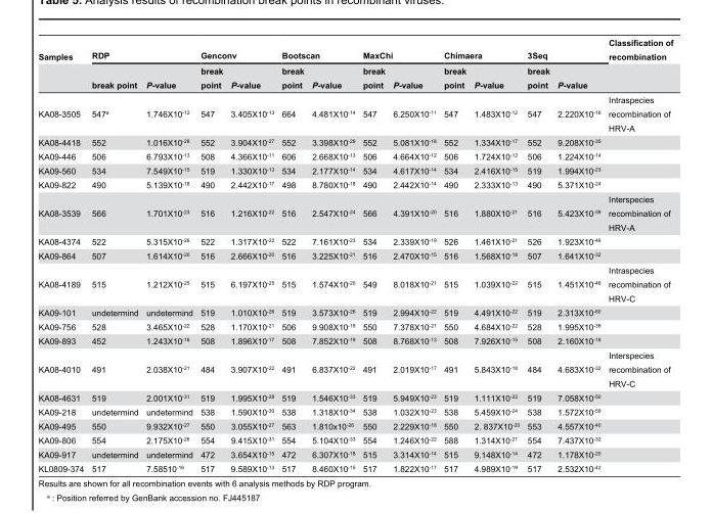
<table><thead><tr><td rowspan="2">Samples</td><td colspan="2">RDP</td><td colspan="2">Genconv</td><td colspan="2">Bootscan</td><td colspan="2">MaxChi</td><td colspan="2">Chimaera</td><td colspan="2">3Seq</td><td rowspan="2">Classification of recombination</td></tr><tr><td>break point</td><td>P-value</td><td>break point</td><td>P-value</td><td>break point</td><td>P-value</td><td>break point</td><td>P-value</td><td>break point</td><td>P-value</td><td>break point</td><td>P-value</td></tr></thead><tbody><tr><td>KA08-3505</td><td>547<sup>a</sup></td><td>1.746X10<sup>-12</sup></td><td>547</td><td>3.405X10<sup>-13</sup></td><td>664</td><td>4.481X10<sup>-14</sup></td><td>547</td><td>6.250X10<sup>-11</sup></td><td>547</td><td>1.483X10<sup>-12</sup></td><td>547</td><td>2.220X10<sup>-16</sup></td><td>Intraspecies recombination of HRV-A</td></tr><tr><td>KA08-4418</td><td>552</td><td>1.016X10<sup>-28</sup></td><td>552</td><td>3.904X10<sup>-27</sup></td><td>552</td><td>3.398X10<sup>-29</sup></td><td>552</td><td>5.081X10<sup>-18</sup></td><td>552</td><td>1.334X10<sup>-17</sup></td><td>552</td><td>9.208X10<sup>-35</sup></td><td></td></tr><tr><td>KA09-446</td><td>506</td><td>6.793X10<sup>-13</sup></td><td>508</td><td>4.366X10<sup>-11</sup></td><td>606</td><td>2.668X10<sup>-13</sup></td><td>506</td><td>4.664X10<sup>-12</sup></td><td>506</td><td>1.724X10<sup>-12</sup></td><td>506</td><td>1.224X10<sup>-14</sup></td><td></td></tr><tr><td>KA09-560</td><td>534</td><td>7.549X10<sup>-15</sup></td><td>519</td><td>1.330X10<sup>-13</sup></td><td>534</td><td>2.177X10<sup>-14</sup></td><td>534</td><td>4.617X10<sup>-14</sup></td><td>534</td><td>2.416X10<sup>-15</sup></td><td>519</td><td>1.994X10<sup>-23</sup></td><td></td></tr><tr><td>KA09-822</td><td>490</td><td>5.139X10<sup>-18</sup></td><td>490</td><td>2.442X10<sup>-17</sup></td><td>498</td><td>8.780X10<sup>-18</sup></td><td>490</td><td>2.442X10<sup>-14</sup></td><td>490</td><td>2.333X10<sup>-13</sup></td><td>490</td><td>5.371X10<sup>-24</sup></td><td></td></tr><tr><td>KA08-3539</td><td>566</td><td>1.701X10<sup>-23</sup></td><td>516</td><td>1.216X10<sup>-22</sup></td><td>516</td><td>2.547X10<sup>-24</sup></td><td>566</td><td>4.391X10<sup>-20</sup></td><td>516</td><td>1.880X10<sup>-21</sup></td><td>516</td><td>5.423X10<sup>-39</sup></td><td>Interspecies recombination of HRV-A</td></tr><tr><td>KA08-4374</td><td>522</td><td>5.315X10<sup>-26</sup></td><td>522</td><td>1.317X10<sup>-22</sup></td><td>522</td><td>7.161X10<sup>-23</sup></td><td>534</td><td>2.339X10<sup>-19</sup></td><td>526</td><td>1.461X10<sup>-21</sup></td><td>526</td><td>1.923X10<sup>-46</sup></td><td></td></tr><tr><td>KA09-864</td><td>507</td><td>1.614X10<sup>-20</sup></td><td>516</td><td>2.666X10<sup>-20</sup></td><td>516</td><td>3.225X10<sup>-21</sup></td><td>516</td><td>2.470X10<sup>-15</sup></td><td>516</td><td>1.568X10<sup>-18</sup></td><td>507</td><td>1.641X10<sup>-32</sup></td><td></td></tr><tr><td>KA08-4189</td><td>515</td><td>1.212X10<sup>-25</sup></td><td>515</td><td>6.197X10<sup>-25</sup></td><td>515</td><td>1.574X10<sup>-20</sup></td><td>549</td><td>8.018X10<sup>-21</sup></td><td>515</td><td>1.039X10<sup>-22</sup></td><td>515</td><td>1.451X10<sup>-46</sup></td><td>Intraspecies recombination of HRV-C</td></tr><tr><td>KA09-101</td><td>undetermind</td><td>undetermind</td><td>519</td><td>1.010X10<sup>-26</sup></td><td>519</td><td>3.573X10<sup>-26</sup></td><td>519</td><td>2.994X10<sup>-22</sup></td><td>519</td><td>4.491X10<sup>-22</sup></td><td>519</td><td>2.313X10<sup>-60</sup></td><td></td></tr><tr><td>KA09-756</td><td>528</td><td>3.465X10<sup>-22</sup></td><td>528</td><td>1.170X10<sup>-21</sup></td><td>506</td><td>9.908X10<sup>-19</sup></td><td>550</td><td>7.378X10<sup>-21</sup></td><td>550</td><td>4.684X10<sup>-22</sup></td><td>528</td><td>1.995X10<sup>-39</sup></td><td></td></tr><tr><td>KA09-893</td><td>452</td><td>1.243X10<sup>-16</sup></td><td>508</td><td>1.896X10<sup>-17</sup></td><td>508</td><td>7.852X10<sup>-19</sup></td><td>508</td><td>8.768X10<sup>-13</sup></td><td>508</td><td>7.926X10<sup>-15</sup></td><td>508</td><td>2.160X10<sup>-18</sup></td><td></td></tr><tr><td>KA08-4010</td><td>491</td><td>2.038X10<sup>-21</sup></td><td>484</td><td>3.907X10<sup>-22</sup></td><td>491</td><td>6.837X10<sup>-22</sup></td><td>491</td><td>2.019X10<sup>-17</sup></td><td>491</td><td>5.843X10<sup>-18</sup></td><td>484</td><td>4.683X10<sup>-32</sup></td><td>Interspecies recombination of HRV-C</td></tr><tr><td>KA08-4631</td><td>519</td><td>2.001X10<sup>-31</sup></td><td>519</td><td>1.995X10<sup>-28</sup></td><td>519</td><td>1.546X10<sup>-33</sup></td><td>519</td><td>5.949X10<sup>-23</sup></td><td>519</td><td>1.111X10<sup>-22</sup></td><td>519</td><td>7.058X10<sup>-50</sup></td><td></td></tr><tr><td>KA09-218</td><td>undetermind</td><td>undetermind</td><td>538</td><td>1.590X10<sup>-30</sup></td><td>538</td><td>1.318X10<sup>-34</sup></td><td>538</td><td>1.032X10<sup>-23</sup></td><td>538</td><td>5.459X10<sup>-24</sup></td><td>538</td><td>1.572X10<sup>-59</sup></td><td></td></tr><tr><td>KA09-495</td><td>550</td><td>9.932X10<sup>-27</sup></td><td>550</td><td>3.055X10<sup>-27</sup></td><td>563</td><td>1.810x10<sup>-26</sup></td><td>550</td><td>2.229X10<sup>-18</sup></td><td>550</td><td>2. 837X10<sup>-20</sup></td><td>553</td><td>4.557X10<sup>-40</sup></td><td></td></tr><tr><td>KA09-806</td><td>554</td><td>2.175X10<sup>-26</sup></td><td>554</td><td>9.415X10<sup>-31</sup></td><td>554</td><td>5.104X10<sup>-33</sup></td><td>554</td><td>1.246X10<sup>-22</sup></td><td>588</td><td>1.314X10<sup>-21</sup></td><td>554</td><td>7.437X10<sup>-32</sup></td><td></td></tr><tr><td>KA09-917</td><td>undetermind</td><td>undetermind</td><td>472</td><td>3.654X10<sup>-15</sup></td><td>472</td><td>6.307X10<sup>-18</sup></td><td>515</td><td>3.314X10<sup>-14</sup></td><td>515</td><td>9.148X10<sup>-14</sup></td><td>472</td><td>1.178X10<sup>-20</sup></td><td></td></tr><tr><td>KL0809-374</td><td>517</td><td>7.58510<sup>-16</sup></td><td>517</td><td>9.589X10<sup>-13</sup></td><td>517</td><td>8.460X10<sup>-15</sup></td><td>517</td><td>1.822X10<sup>-17</sup></td><td>517</td><td>4.989X10<sup>-19</sup></td><td>517</td><td>2.532X10<sup>-42</sup></td><td></td></tr></tbody></table>